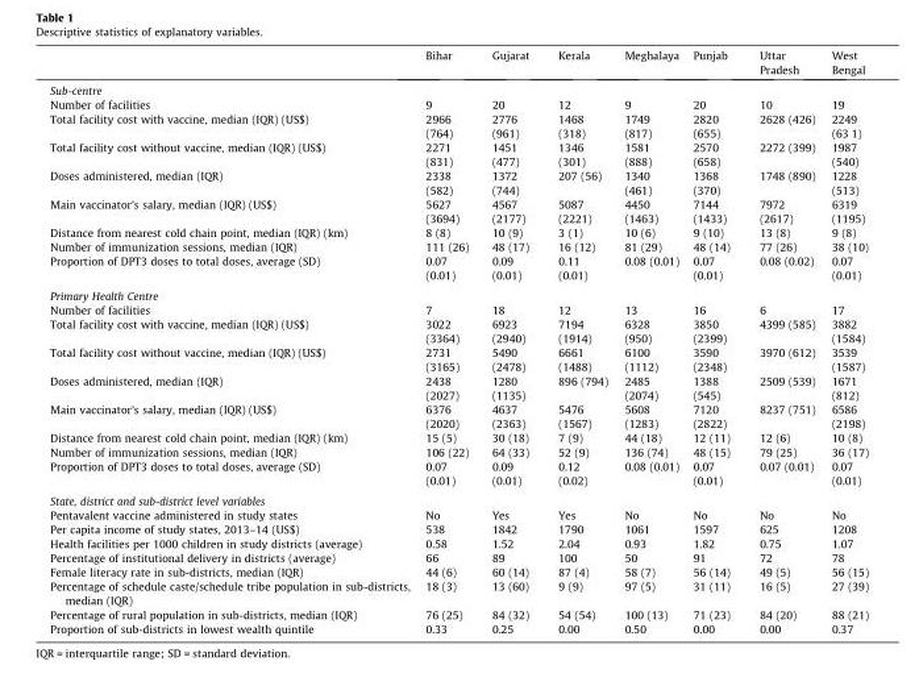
<table><thead><tr><td></td><td>Bihar</td><td>Gujarat</td><td>Kerala</td><td>Meghalaya</td><td>Punjab</td><td>Uttar Pradesh</td><td>West Bengal</td></tr></thead><tbody><tr><td colspan="8">Sub-centre</td></tr><tr><td>Number of facilities</td><td>9</td><td>20</td><td>12</td><td>9</td><td>20</td><td>10</td><td>19</td></tr><tr><td>Total facility cost with vaccine, median (IQR) (US$)</td><td>2966 (764)</td><td>2776 (961)</td><td>1468 (318)</td><td>1749 (817)</td><td>2820 (655)</td><td>2628 (426)</td><td>2249 (63 1)</td></tr><tr><td>Total facility cost without vaccine, median (IQR) (US$)</td><td>2271 (831)</td><td>1451 (477)</td><td>1346 (301)</td><td>1581 (888)</td><td>2570 (658)</td><td>2272 (399)</td><td>1987 (540)</td></tr><tr><td>Doses administered, median (IQR)</td><td>2338 (582)</td><td>1372 (744)</td><td>207 (56)</td><td>1340 (461)</td><td>1368 (370)</td><td>1748 (890)</td><td>1228 (513)</td></tr><tr><td>Main vaccinator’s salary, median (IQR) (US$)</td><td>5627 (3694)</td><td>4567 (2177)</td><td>5087 (2221)</td><td>4450 (1463)</td><td>7144 (1433)</td><td>7972 (2617)</td><td>6319 (1195)</td></tr><tr><td>Distance from nearest cold chain point, median (IQR) (km)</td><td>8 (8)</td><td>10 (9)</td><td>3 (1)</td><td>10 (6)</td><td>9 (10)</td><td>13 (8)</td><td>9 (8)</td></tr><tr><td>Number of immunization sessions, median (IQR)</td><td>111 (26)</td><td>48 (17)</td><td>16 (12)</td><td>81 (29)</td><td>48 (14)</td><td>77 (26)</td><td>38 (10)</td></tr><tr><td>Proportion of DPT3 doses to total doses, average (SD)</td><td>0.07 (0.01)</td><td>0.09 (0.01)</td><td>0.11 (0.01)</td><td>0.08 (0.01)</td><td>0.07 (0.01)</td><td>0.08 (0.02)</td><td>0.07 (0.01)</td></tr><tr><td colspan="8">Primary Health Centre</td></tr><tr><td>Number of facilities</td><td>7</td><td>18</td><td>12</td><td>13</td><td>16</td><td>6</td><td>17</td></tr><tr><td>Total facility cost with vaccine, median (IQR) (US$)</td><td>3022 (3364)</td><td>6923 (2940)</td><td>7194 (1914)</td><td>6328 (950)</td><td>3850 (2399)</td><td>4399 (585)</td><td>3882 (1584)</td></tr><tr><td>Total facility cost without vaccine, median (IQR) (US$)</td><td>2731 (3165)</td><td>5490 (2478)</td><td>6661 (1488)</td><td>6100 (1112)</td><td>3590 (2348)</td><td>3970 (612)</td><td>3539 (1587)</td></tr><tr><td>Doses administered, median (IQR)</td><td>2438 (2027)</td><td>1280 (1135)</td><td>896 (794)</td><td>2485 (2074)</td><td>1388 (545)</td><td>2509 (539)</td><td>1671 (812)</td></tr><tr><td>Main vaccinator’s salary, median (IQR) (US$)</td><td>6376 (2020)</td><td>4637 (2363)</td><td>5476 (1567)</td><td>5608 (1283)</td><td>7120 (2822)</td><td>8237 (751)</td><td>6586 (2198)</td></tr><tr><td>Distance from nearest cold chain point, median (IQR) (km)</td><td>15 (5)</td><td>30 (18)</td><td>7 (9)</td><td>44 (18)</td><td>12 (11)</td><td>12 (6)</td><td>10 (8)</td></tr><tr><td>Number of immunization sessions, median (IQR)</td><td>106 (22)</td><td>64 (33)</td><td>52 (9)</td><td>136 (74)</td><td>48 (15)</td><td>79 (25)</td><td>36 (17)</td></tr><tr><td>Proportion of DPT3 doses to total doses, average (SD)</td><td>0.07 (0.01)</td><td>0.09 (0.01)</td><td>0.12 (0.02)</td><td>0.08 (0.01)</td><td>0.07 (0.01)</td><td>0.07 (0.01)</td><td>0.07 (0.01)</td></tr><tr><td colspan="8">State, district and sub-district level variables</td></tr><tr><td>Pentavalent vaccine administered in study states</td><td>No</td><td>Yes</td><td>Yes</td><td>No</td><td>No</td><td>No</td><td>No</td></tr><tr><td>Per capita income of study states, 2013–14 (US$)</td><td>538</td><td>1842</td><td>1790</td><td>1061</td><td>1597</td><td>625</td><td>1208</td></tr><tr><td>Health facilities per 1000 children in study districts (average)</td><td>0.58</td><td>1.52</td><td>2.04</td><td>0.93</td><td>1.82</td><td>0.75</td><td>1.07</td></tr><tr><td>Percentage of institutional delivery in districts (average)</td><td>66</td><td>89</td><td>100</td><td>50</td><td>91</td><td>72</td><td>78</td></tr><tr><td>Female literacy rate in sub-districts, median (IQR)</td><td>44 (6)</td><td>60 (14)</td><td>87 (4)</td><td>58 (7)</td><td>56 (14)</td><td>49 (5)</td><td>56 (15)</td></tr><tr><td>Percentage of schedule caste/schedule tribe population in sub-districts, median (IQR)</td><td>18 (3)</td><td>13 (60)</td><td>9 (9)</td><td>97 (5)</td><td>31 (11)</td><td>16 (5)</td><td>27 (39)</td></tr><tr><td>Percentage of rural population in sub-districts, median (IQR)</td><td>76 (25)</td><td>84 (32)</td><td>54 (54)</td><td>100 (13)</td><td>71 (23)</td><td>84 (20)</td><td>88 (21)</td></tr><tr><td>Proportion of sub-districts in lowest wealth quintile</td><td>0.33</td><td>0.25</td><td>0.00</td><td>0.50</td><td>0.00</td><td>0.00</td><td>0.37</td></tr></tbody></table>